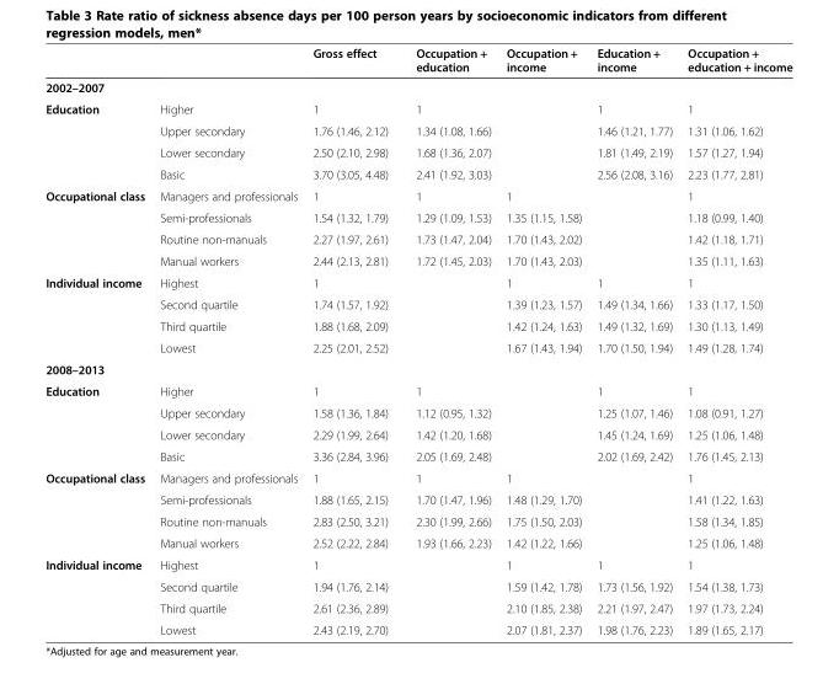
<table><thead><tr><td></td><td></td><td>Gross effect</td><td>Occupation + education</td><td>Occupation + income</td><td>Education + income</td><td>Occupation + education + income</td></tr></thead><tbody><tr><td colspan="7">2002–2007</td></tr><tr><td rowspan="4">Education</td><td>Higher</td><td>1</td><td>1</td><td></td><td>1</td><td>1</td></tr><tr><td>Upper secondary</td><td>1.76 (1.46, 2.12)</td><td>1.34 (1.08, 1.66)</td><td></td><td>1.46 (1.21, 1.77)</td><td>1.31 (1.06, 1.62)</td></tr><tr><td>Lower secondary</td><td>2.50 (2.10, 2.98)</td><td>1.68 (1.36, 2.07)</td><td></td><td>1.81 (1.49, 2.19)</td><td>1.57 (1.27, 1.94)</td></tr><tr><td>Basic</td><td>3.70 (3.05, 4.48)</td><td>2.41 (1.92, 3.03)</td><td></td><td>2.56 (2.08, 3.16)</td><td>2.23 (1.77, 2.81)</td></tr><tr><td rowspan="4">Occupational class</td><td>Managers and professionals</td><td>1</td><td>1</td><td>1</td><td></td><td>1</td></tr><tr><td>Semi-professionals</td><td>1.54 (1.32, 1.79)</td><td>1.29 (1.09, 1.53)</td><td>1.35 (1.15, 1.58)</td><td></td><td>1.18 (0.99, 1.40)</td></tr><tr><td>Routine non-manuals</td><td>2.27 (1.97, 2.61)</td><td>1.73 (1.47, 2.04)</td><td>1.70 (1.43, 2.02)</td><td></td><td>1.42 (1.18, 1.71)</td></tr><tr><td>Manual workers</td><td>2.44 (2.13, 2.81)</td><td>1.72 (1.45, 2.03)</td><td>1.70 (1.43, 2.03)</td><td></td><td>1.35 (1.11, 1.63)</td></tr><tr><td rowspan="4">Individual income</td><td>Highest</td><td>1</td><td></td><td>1</td><td>1</td><td>1</td></tr><tr><td>Second quartile</td><td>1.74 (1.57, 1.92)</td><td></td><td>1.39 (1.23, 1.57)</td><td>1.49 (1.34, 1.66)</td><td>1.33 (1.17, 1.50)</td></tr><tr><td>Third quartile</td><td>1.88 (1.68, 2.09)</td><td></td><td>1.42 (1.24, 1.63)</td><td>1.49 (1.32, 1.69)</td><td>1.30 (1.13, 1.49)</td></tr><tr><td>Lowest</td><td>2.25 (2.01, 2.52)</td><td></td><td>1.67 (1.43, 1.94)</td><td>1.70 (1.50, 1.94)</td><td>1.49 (1.28, 1.74)</td></tr><tr><td colspan="7">2008–2013</td></tr><tr><td rowspan="4">Education</td><td>Higher</td><td>1</td><td>1</td><td></td><td>1</td><td>1</td></tr><tr><td>Upper secondary</td><td>1.58 (1.36, 1.84)</td><td>1.12 (0.95, 1.32)</td><td></td><td>1.25 (1.07, 1.46)</td><td>1.08 (0.91, 1.27)</td></tr><tr><td>Lower secondary</td><td>2.29 (1.99, 2.64)</td><td>1.42 (1.20, 1.68)</td><td></td><td>1.45 (1.24, 1.69)</td><td>1.25 (1.06, 1.48)</td></tr><tr><td>Basic</td><td>3.36 (2.84, 3.96)</td><td>2.05 (1.69, 2.48)</td><td></td><td>2.02 (1.69, 2.42)</td><td>1.76 (1.45, 2.13)</td></tr><tr><td rowspan="4">Occupational class</td><td>Managers and professionals</td><td>1</td><td>1</td><td>1</td><td></td><td>1</td></tr><tr><td>Semi-professionals</td><td>1.88 (1.65, 2.15)</td><td>1.70 (1.47, 1.96)</td><td>1.48 (1.29, 1.70)</td><td></td><td>1.41 (1.22, 1.63)</td></tr><tr><td>Routine non-manuals</td><td>2.83 (2.50, 3.21)</td><td>2.30 (1.99, 2.66)</td><td>1.75 (1.50, 2.03)</td><td></td><td>1.58 (1.34, 1.85)</td></tr><tr><td>Manual workers</td><td>2.52 (2.22, 2.84)</td><td>1.93 (1.66, 2.23)</td><td>1.42 (1.22, 1.66)</td><td></td><td>1.25 (1.06, 1.48)</td></tr><tr><td rowspan="4">Individual income</td><td>Highest</td><td>1</td><td></td><td>1</td><td>1</td><td>1</td></tr><tr><td>Second quartile</td><td>1.94 (1.76, 2.14)</td><td></td><td>1.59 (1.42, 1.78)</td><td>1.73 (1.56, 1.92)</td><td>1.54 (1.38, 1.73)</td></tr><tr><td>Third quartile</td><td>2.61 (2.36, 2.89)</td><td></td><td>2.10 (1.85, 2.38)</td><td>2.21 (1.97, 2.47)</td><td>1.97 (1.73, 2.24)</td></tr><tr><td>Lowest</td><td>2.43 (2.19, 2.70)</td><td></td><td>2.07 (1.81, 2.37)</td><td>1.98 (1.76, 2.23)</td><td>1.89 (1.65, 2.17)</td></tr></tbody></table>